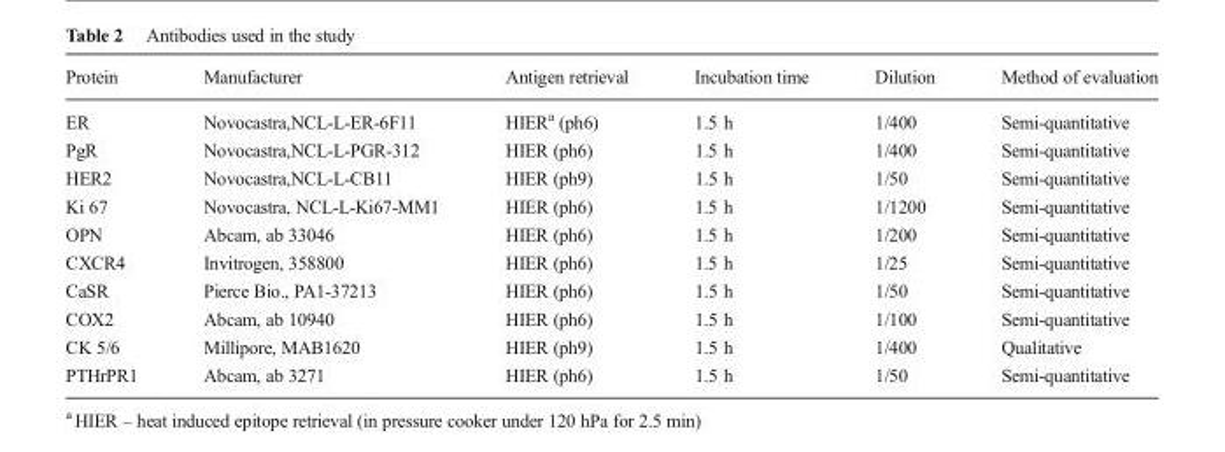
<table><thead><tr><td>Protein</td><td>Manufacturer</td><td>Antigen retrieval</td><td>Incubation time</td><td>Dilution</td><td>Method of evaluation</td></tr></thead><tbody><tr><td>ER</td><td>Novocastra,NCL-L-ER-6F11</td><td>HIER<sup>a</sup> (ph6)</td><td>1.5 h</td><td>1/400</td><td>Semi-quantitative</td></tr><tr><td>PgR</td><td>Novocastra,NCL-L-PGR-312</td><td>HIER (ph6)</td><td>1.5 h</td><td>1/400</td><td>Semi-quantitative</td></tr><tr><td>HER2</td><td>Novocastra,NCL-L-CB11</td><td>HIER (ph9)</td><td>1.5 h</td><td>1/50</td><td>Semi-quantitative</td></tr><tr><td>Ki 67</td><td>Novocastra, NCL-L-Ki67-MM1</td><td>HIER (ph6)</td><td>1.5 h</td><td>1/1200</td><td>Semi-quantitative</td></tr><tr><td>OPN</td><td>Abcam, ab 33046</td><td>HIER (ph6)</td><td>1.5 h</td><td>1/200</td><td>Semi-quantitative</td></tr><tr><td>CXCR4</td><td>Invitrogen, 358800</td><td>HIER (ph6)</td><td>1.5 h</td><td>1/25</td><td>Semi-quantitative</td></tr><tr><td>CaSR</td><td>Pierce Bio., PA1-37213</td><td>HIER (ph6)</td><td>1.5 h</td><td>1/50</td><td>Semi-quantitative</td></tr><tr><td>COX2</td><td>Abcam, ab 10940</td><td>HIER (ph6)</td><td>1.5 h</td><td>1/100</td><td>Semi-quantitative</td></tr><tr><td>CK 5/6</td><td>Millipore, MAB1620</td><td>HIER (ph9)</td><td>1.5 h</td><td>1/400</td><td>Qualitative</td></tr><tr><td>PTHrPR1</td><td>Abcam, ab 3271</td><td>HIER (ph6)</td><td>1.5 h</td><td>1/50</td><td>Semi-quantitative</td></tr></tbody></table>